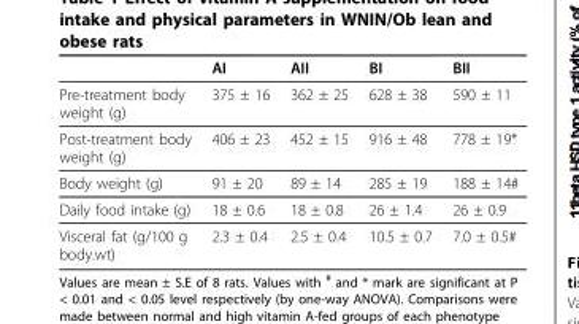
<table><thead><tr><td></td><td>AI</td><td>AII</td><td>BI</td><td>BII</td></tr></thead><tbody><tr><td>Pre-treatment body weight (g)</td><td>375 ± 16</td><td>362 ± 25</td><td>628 ± 38</td><td>590 ± 11</td></tr><tr><td>Post-treatment body weight (g)</td><td>406 ± 23</td><td>452 ± 15</td><td>916 ± 48</td><td>778 ± 19*</td></tr><tr><td>Body weight (g)</td><td>91 ± 20</td><td>89 ± 14</td><td>285 ± 19</td><td>188 ± 14#</td></tr><tr><td>Daily food intake (g)</td><td>18 ± 0.6</td><td>18 ± 0.8</td><td>26 ± 1.4</td><td>26 ± 0.9</td></tr><tr><td>Visceral fat (g/100 g body.wt)</td><td>2.3 ± 0.4</td><td>2.5 ± 0.4</td><td>10.5 ± 0.7</td><td>7.0 ± 0.5#</td></tr></tbody></table>